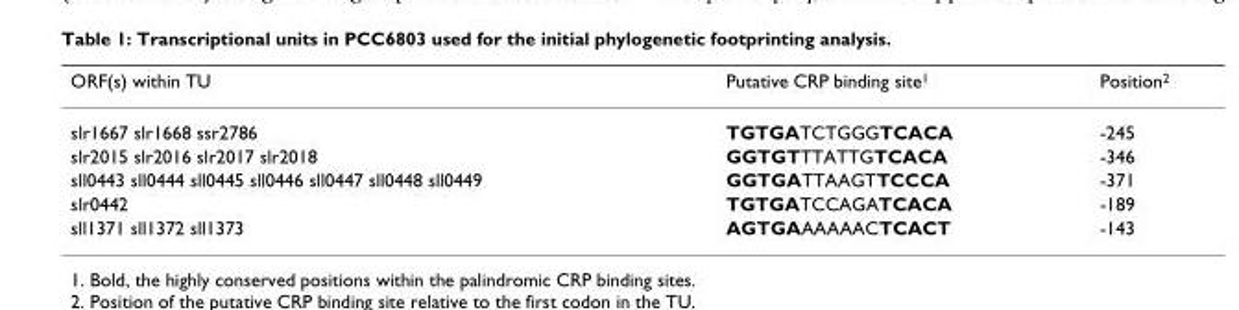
<table><thead><tr><td>ORF(s) within TU</td><td>Putative CRP binding site<sup>1</sup></td><td>Position<sup>2</sup></td></tr></thead><tbody><tr><td>slr1667 slr1668 ssr2786</td><td>TGTGATCTGGGTCACA</td><td>-245</td></tr><tr><td>slr2015 slr2016 slr2017 slr2018</td><td>GGTGTTTATTGTCACA</td><td>-346</td></tr><tr><td>sll0443 sll0444 sll0445 sll0446 sll0447 sll0448 sll0449</td><td>GGTGATTAAGTTCCCA</td><td>-371</td></tr><tr><td>slr0442</td><td>TGTGATCCAGATCACA</td><td>-189</td></tr><tr><td>sll1371 sll1372 sll1373</td><td>AGTGAAAAAACTCACT</td><td>-143</td></tr></tbody></table>